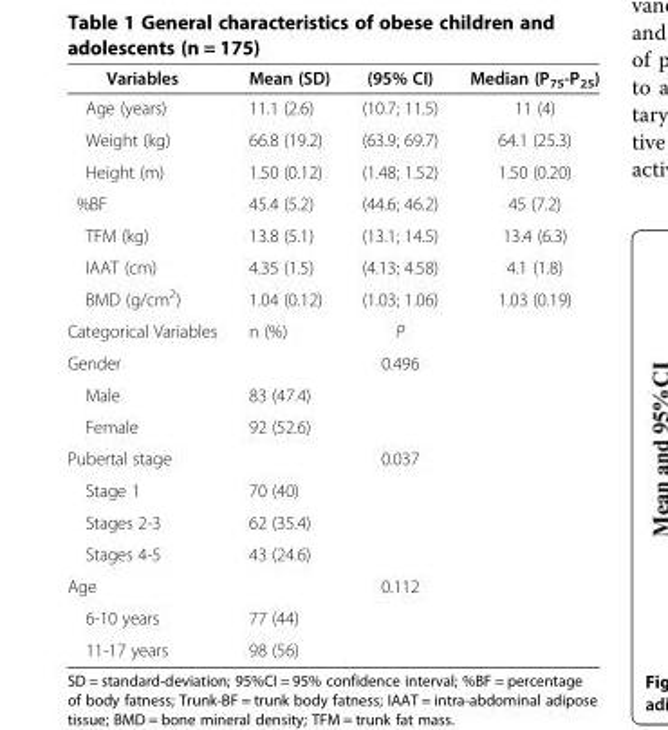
<table><thead><tr><td>Variables</td><td>Mean (SD)</td><td>(95% CI)</td><td>Median (P<sub>75</sub>-P<sub>25</sub>)</td></tr></thead><tbody><tr><td>Age (years)</td><td>11.1 (2.6)</td><td>(10.7; 11.5)</td><td>11 (4)</td></tr><tr><td>Weight (kg)</td><td>66.8 (19.2)</td><td>(63.9; 69.7)</td><td>64.1 (25.3)</td></tr><tr><td>Height (m)</td><td>1.50 (0.12)</td><td>(1.48; 1.52)</td><td>1.50 (0.20)</td></tr><tr><td>%BF</td><td>45.4 (5.2)</td><td>(44.6; 46.2)</td><td>45 (7.2)</td></tr><tr><td>TFM (kg)</td><td>13.8 (5.1)</td><td>(13.1; 14.5)</td><td>13.4 (6.3)</td></tr><tr><td>IAAT (cm)</td><td>4.35 (1.5)</td><td>(4.13; 4.58)</td><td>4.1 (1.8)</td></tr><tr><td>BMD (g/cm<sup>2</sup>)</td><td>1.04 (0.12)</td><td>(1.03; 1.06)</td><td>1.03 (0.19)</td></tr><tr><td>Categorical Variables</td><td>n (%)</td><td>P</td><td></td></tr><tr><td>Gender</td><td></td><td>0.496</td><td></td></tr><tr><td>Male</td><td>83 (47.4)</td><td></td><td></td></tr><tr><td>Female</td><td>92 (52.6)</td><td></td><td></td></tr><tr><td>Pubertal stage</td><td></td><td>0.037</td><td></td></tr><tr><td>Stage 1</td><td>70 (40)</td><td></td><td></td></tr><tr><td>Stages 2-3</td><td>62 (35.4)</td><td></td><td></td></tr><tr><td>Stages 4-5</td><td>43 (24.6)</td><td></td><td></td></tr><tr><td>Age</td><td></td><td>0.112</td><td></td></tr><tr><td>6-10 years</td><td>77 (44)</td><td></td><td></td></tr><tr><td>11-17 years</td><td>98 (56)</td><td></td><td></td></tr></tbody></table>